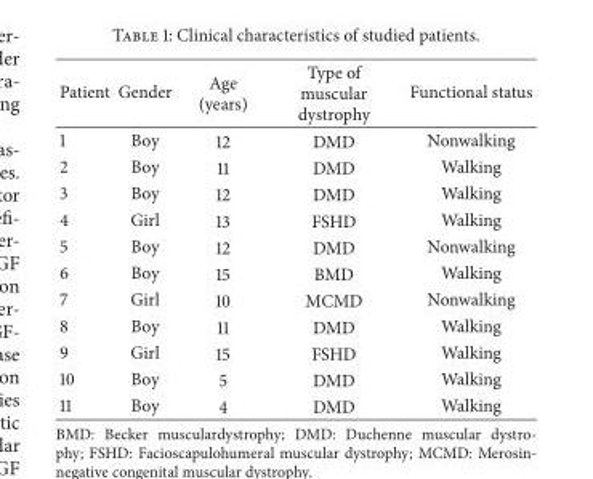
<table><thead><tr><td>Patient</td><td>Gender</td><td>Age (years)</td><td>Type of muscular dystrophy</td><td>Functional status</td></tr></thead><tbody><tr><td>1</td><td>Boy</td><td>12</td><td>DMD</td><td>Nonwalking</td></tr><tr><td>2</td><td>Boy</td><td>11</td><td>DMD</td><td>Walking</td></tr><tr><td>3</td><td>Boy</td><td>12</td><td>DMD</td><td>Walking</td></tr><tr><td>4</td><td>Girl</td><td>13</td><td>FSHD</td><td>Walking</td></tr><tr><td>5</td><td>Boy</td><td>12</td><td>DMD</td><td>Nonwalking</td></tr><tr><td>6</td><td>Boy</td><td>15</td><td>BMD</td><td>Walking</td></tr><tr><td>7</td><td>Girl</td><td>10</td><td>MCMD</td><td>Nonwalking</td></tr><tr><td>8</td><td>Boy</td><td>11</td><td>DMD</td><td>Walking</td></tr><tr><td>9</td><td>Girl</td><td>15</td><td>FSHD</td><td>Walking</td></tr><tr><td>10</td><td>Boy</td><td>5</td><td>DMD</td><td>Walking</td></tr><tr><td>11</td><td>Boy</td><td>4</td><td>DMD</td><td>Walking</td></tr></tbody></table>